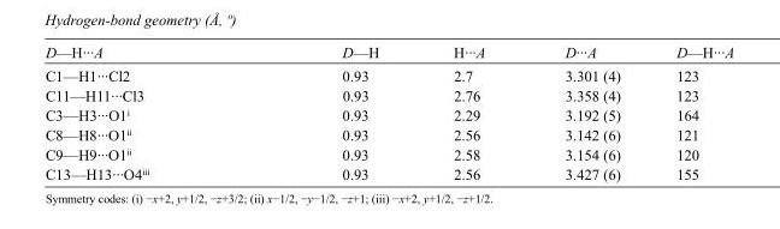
<table><tbody><tr><td>D—H···A</td><td>D—H</td><td>H···A</td><td>D···A</td><td>D—H···A</td></tr><tr><td>C1—H1···Cl2</td><td>0.93</td><td>2.7</td><td>3.301 (4)</td><td>123</td></tr><tr><td>C11—H11···Cl3</td><td>0.93</td><td>2.76</td><td>3.358 (4)</td><td>123</td></tr><tr><td>C3—H3···O1<sup>i</sup></td><td>0.93</td><td>2.29</td><td>3.192 (5)</td><td>164</td></tr><tr><td>C8—H8···O1<sup>ii</sup></td><td>0.93</td><td>2.56</td><td>3.142 (6)</td><td>121</td></tr><tr><td>C9—H9···O1<sup>ii</sup></td><td>0.93</td><td>2.58</td><td>3.154 (6)</td><td>120</td></tr><tr><td>C13—H13···O4<sup>iii</sup></td><td>0.93</td><td>2.56</td><td>3.427 (6)</td><td>155</td></tr></tbody></table>